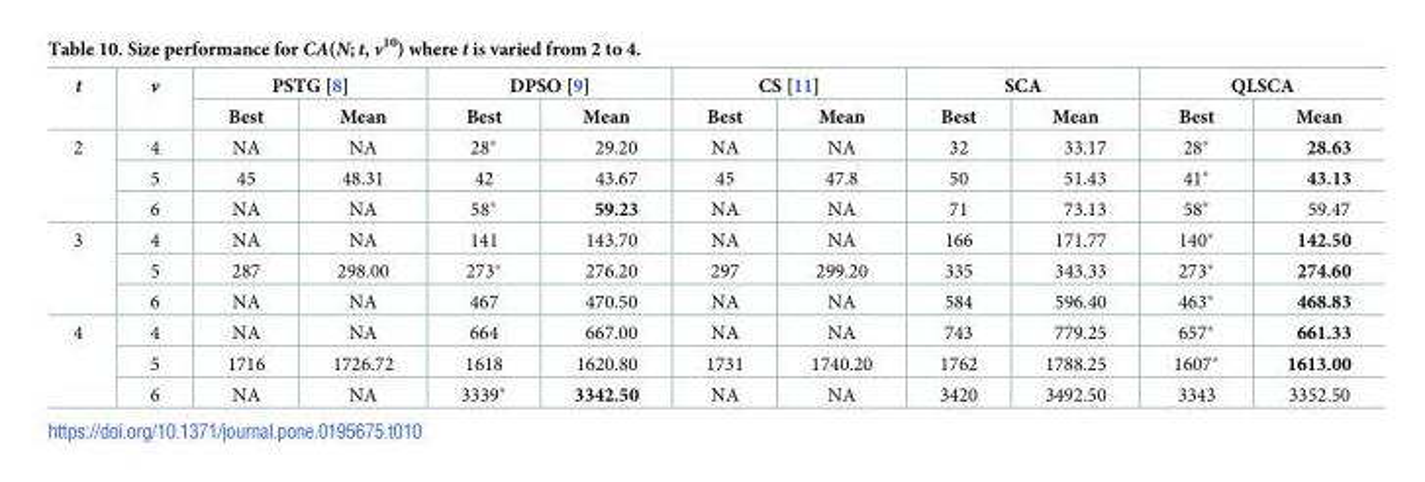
<table><thead><tr><td rowspan="2">t</td><td rowspan="2">v</td><td colspan="2">PSTG [8]</td><td colspan="2">DPSO [9]</td><td colspan="2">CS [11]</td><td colspan="2">SCA</td><td colspan="2">QLSCA</td></tr><tr><td>Best</td><td>Mean</td><td>Best</td><td>Mean</td><td>Best</td><td>Mean</td><td>Best</td><td>Mean</td><td>Best</td><td>Mean</td></tr></thead><tbody><tr><td rowspan="3">2</td><td>4</td><td>NA</td><td>NA</td><td>28*</td><td>29.20</td><td>NA</td><td>NA</td><td>32</td><td>33.17</td><td>28*</td><td>28.63</td></tr><tr><td>5</td><td>45</td><td>48.31</td><td>42</td><td>43.67</td><td>45</td><td>47.8</td><td>50</td><td>51.43</td><td>41*</td><td>43.13</td></tr><tr><td>6</td><td>NA</td><td>NA</td><td>58*</td><td>59.23</td><td>NA</td><td>NA</td><td>71</td><td>73.13</td><td>58*</td><td>59.47</td></tr><tr><td rowspan="3">3</td><td>4</td><td>NA</td><td>NA</td><td>141</td><td>143.70</td><td>NA</td><td>NA</td><td>166</td><td>171.77</td><td>140*</td><td>142.50</td></tr><tr><td>5</td><td>287</td><td>298.00</td><td>273*</td><td>276.20</td><td>297</td><td>299.20</td><td>335</td><td>343.33</td><td>273*</td><td>274.60</td></tr><tr><td>6</td><td>NA</td><td>NA</td><td>467</td><td>470.50</td><td>NA</td><td>NA</td><td>584</td><td>596.40</td><td>463*</td><td>468.83</td></tr><tr><td rowspan="3">4</td><td>4</td><td>NA</td><td>NA</td><td>664</td><td>667.00</td><td>NA</td><td>NA</td><td>743</td><td>779.25</td><td>657*</td><td>661.33</td></tr><tr><td>5</td><td>1716</td><td>1726.72</td><td>1618</td><td>1620.80</td><td>1731</td><td>1740.20</td><td>1762</td><td>1788.25</td><td>1607*</td><td>1613.00</td></tr><tr><td>6</td><td>NA</td><td>NA</td><td>3339*</td><td>3342.50</td><td>NA</td><td>NA</td><td>3420</td><td>3492.50</td><td>3343</td><td>3352.50</td></tr></tbody></table>